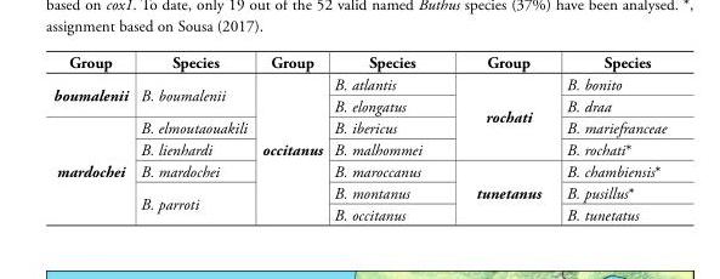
<table><thead><tr><td>Group</td><td>Species</td><td>Group</td><td>Species</td><td>Group</td><td>Species</td></tr></thead><tbody><tr><td rowspan="2">boumalenii</td><td rowspan="2">B. boumalenii</td><td rowspan="7">occitanus</td><td>B. atlantis</td><td rowspan="4">rochati</td><td>B. bonito</td></tr><tr><td>B. elongatus</td><td>B. draa</td></tr><tr><td rowspan="5">mardochei</td><td>B. elmoutaouakili</td><td>B. ibericus</td><td>B. mariefranceae</td></tr><tr><td>B. lienhardi</td><td>B. malhommei</td><td>B. rochati*</td></tr><tr><td>B. mardochei</td><td>B. maroccanus</td><td rowspan="3">tunetanus</td><td>B. chambiensis*</td></tr><tr><td rowspan="2">B. parroti</td><td>B. montanus</td><td>B. pusillus*</td></tr><tr><td>B. occitanus</td><td>B. tunetatus</td></tr></tbody></table>